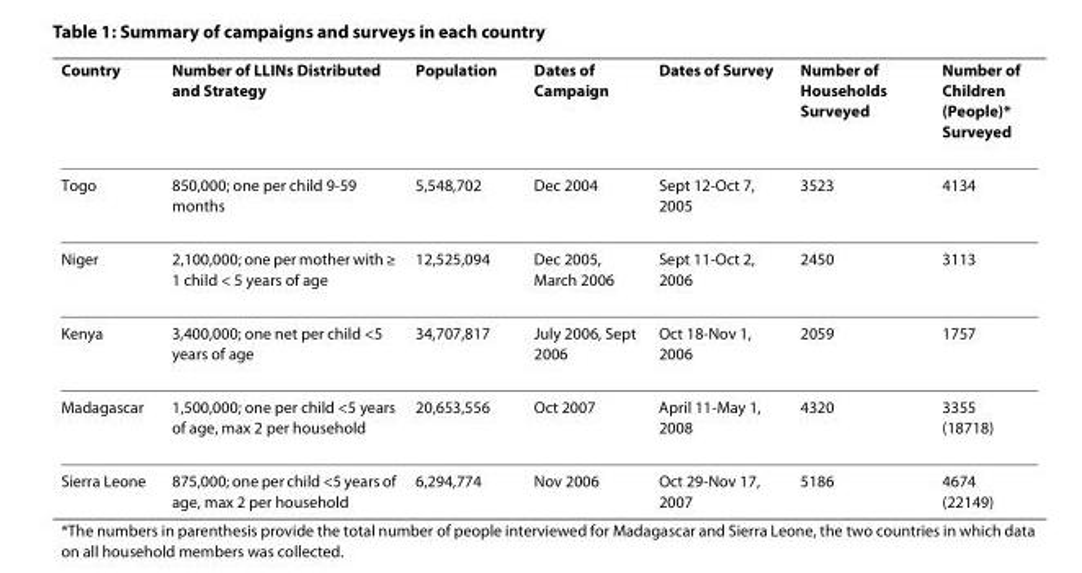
<table><thead><tr><td>Country</td><td>Number of LLINs Distributed and Strategy</td><td>Population</td><td>Dates of Campaign</td><td>Dates of Survey</td><td>Number of Households Surveyed</td><td>Number of Children (People)* Surveyed</td></tr></thead><tbody><tr><td>Togo</td><td>850,000; one per child 9-59 months</td><td>5,548,702</td><td>Dec 2004</td><td>Sept 12-Oct 7, 2005</td><td>3523</td><td>4134</td></tr><tr><td>Niger</td><td>2,100,000; one per mother with ≥ 1 child &lt; 5 years of age</td><td>12,525,094</td><td>Dec 2005, March 2006</td><td>Sept 11-Oct 2, 2006</td><td>2450</td><td>3113</td></tr><tr><td>Kenya</td><td>3,400,000; one net per child &lt;5 years of age</td><td>34,707,817</td><td>July 2006, Sept 2006</td><td>Oct 18-Nov 1, 2006</td><td>2059</td><td>1757</td></tr><tr><td>Madagascar</td><td>1,500,000; one per child &lt;5 years of age, max 2 per household</td><td>20,653,556</td><td>Oct 2007</td><td>April 11-May 1, 2008</td><td>4320</td><td>3355 (18718)</td></tr><tr><td>Sierra Leone</td><td>875,000; one per child &lt;5 years of age, max 2 per household</td><td>6,294,774</td><td>Nov 2006</td><td>Oct 29-Nov 17, 2007</td><td>5186</td><td>4674 (22149)</td></tr></tbody></table>